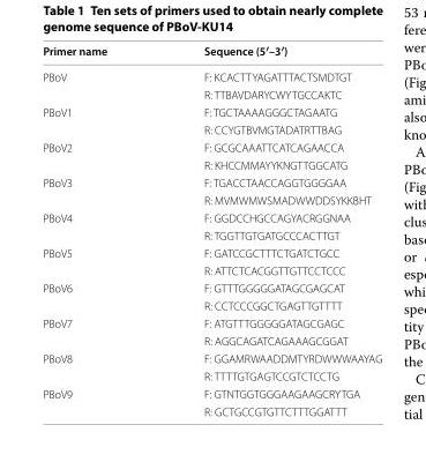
<table><thead><tr><td>Primer name</td><td>Sequence (5′–3′)</td></tr></thead><tbody><tr><td rowspan="2">PBoV</td><td>F: KCACTTYAGATTTACTSMDTGT</td></tr><tr><td>R: TTBAVDARYCWYTGCCAKTC</td></tr><tr><td rowspan="2">PBoV1</td><td>F: TGCTAAAAGGGCTAGAATG</td></tr><tr><td>R: CCYGTBVMGTADATRTTBAG</td></tr><tr><td rowspan="2">PBoV2</td><td>F: GCGCAAATTCATCAGAACCA</td></tr><tr><td>R: KHCCMMAYYKNGTTGGCATG</td></tr><tr><td rowspan="2">PBoV3</td><td>F: TGACCTAACCAGGTGGGGAA</td></tr><tr><td>R: MVMWMWSMADWWDDSYKKBHT</td></tr><tr><td rowspan="2">PBoV4</td><td>F: GGDCCHGCCAGYACRGGNAA</td></tr><tr><td>R: TGGTTGTGATGCCCACTTGT</td></tr><tr><td rowspan="2">PBoV5</td><td>F: GATCCGCTTTCTGATCTGCC</td></tr><tr><td>R: ATTCTCACGGTTGTTCCTCCC</td></tr><tr><td rowspan="2">PBoV6</td><td>F: GTTTGGGGGATAGCGAGCAT</td></tr><tr><td>R: CCTCCCGGCTGAGTTGTTTT</td></tr><tr><td rowspan="2">PBoV7</td><td>F: ATGTTTGGGGGATAGCGAGC</td></tr><tr><td>R: AGGCAGATCAGAAAGCGGAT</td></tr><tr><td rowspan="2">PBoV8</td><td>F: GGAMRWAADDMTYRDWWWAAYAG</td></tr><tr><td>R: TTTTGTGAGTCCGTCTCCTG</td></tr><tr><td rowspan="2">PBoV9</td><td>F: GTNTGGTGGGAAGAAGCRYTGA</td></tr><tr><td>R: GCTGCCGTGTTCTTTGGATTT</td></tr></tbody></table>